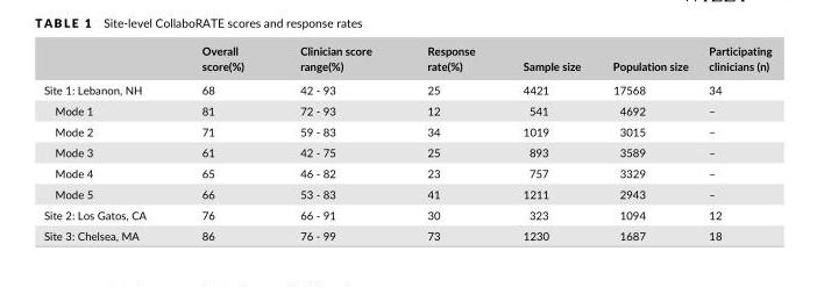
<table><thead><tr><td></td><td>Overall score(%)</td><td>Clinician score range(%)</td><td>Response rate(%)</td><td>Sample size</td><td>Population size</td><td>Participating clinicians (n)</td></tr></thead><tbody><tr><td>Site 1: Lebanon, NH</td><td>68</td><td>42 - 93</td><td>25</td><td>4421</td><td>17568</td><td>34</td></tr><tr><td>Mode 1</td><td>81</td><td>72 - 93</td><td>12</td><td>541</td><td>4692</td><td>–</td></tr><tr><td>Mode 2</td><td>71</td><td>59 - 83</td><td>34</td><td>1019</td><td>3015</td><td>–</td></tr><tr><td>Mode 3</td><td>61</td><td>42 - 75</td><td>25</td><td>893</td><td>3589</td><td>–</td></tr><tr><td>Mode 4</td><td>65</td><td>46 - 82</td><td>23</td><td>757</td><td>3329</td><td>–</td></tr><tr><td>Mode 5</td><td>66</td><td>53 - 83</td><td>41</td><td>1211</td><td>2943</td><td>–</td></tr><tr><td>Site 2: Los Gatos, CA</td><td>76</td><td>66 - 91</td><td>30</td><td>323</td><td>1094</td><td>12</td></tr><tr><td>Site 3: Chelsea, MA</td><td>86</td><td>76 - 99</td><td>73</td><td>1230</td><td>1687</td><td>18</td></tr></tbody></table>